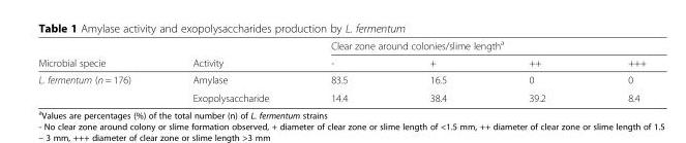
<table><thead><tr><td rowspan="2">Microbial specie</td><td rowspan="2">Activity</td><td colspan="4">Clear zone around colonies/slime length<sup>a</sup></td></tr><tr><td>-</td><td>+</td><td>++</td><td>+++</td></tr></thead><tbody><tr><td rowspan="2">L. fermentum (n = 176)</td><td>Amylase</td><td>83.5</td><td>16.5</td><td>0</td><td>0</td></tr><tr><td>Exopolysaccharide</td><td>14.4</td><td>38.4</td><td>39.2</td><td>8.4</td></tr></tbody></table>